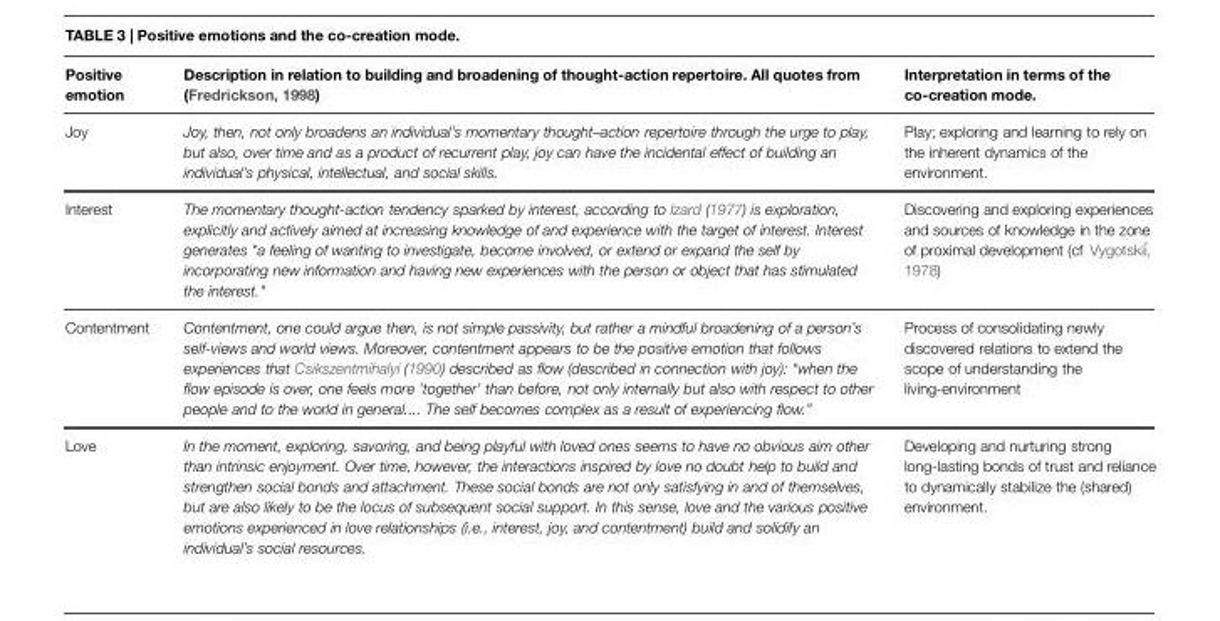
<table><thead><tr><td>Positive emotion</td><td>Description in relation to building and broadening of thought-action repertoire. All quotes from (Fredrickson, 1998)</td><td>Interpretation in terms of the co-creation mode.</td></tr></thead><tbody><tr><td>Joy</td><td>Joy, then, not only broadens an individual’s momentary thought–action repertoire through the urge to play, but also, over time and as a product of recurrent play, joy can have the incidental effect of building an individual’s physical, intellectual, and social skills.</td><td>Play; exploring and learning to rely on the inherent dynamics of the environment.</td></tr><tr><td>Interest</td><td>The momentary thought-action tendency sparked by interest, according to Izard (1977) is exploration, explicitly and actively aimed at increasing knowledge of and experience with the target of interest. Interest generates &quot;a feeling of wanting to investigate, become involved, or extend or expand the self by incorporating new information and having new experiences with the person or object that has stimulated the interest.&quot;</td><td>Discovering and exploring experiences and sources of knowledge in the zone of proximal development (cf Vygotski˘i, 1978)</td></tr><tr><td>Contentment</td><td>Contentment, one could argue then, is not simple passivity, but rather a mindful broadening of a person’s self-views and world views. Moreover, contentment appears to be the positive emotion that follows experiences that Csikszentmihalyi (1990) described as flow (described in connection with joy): “when the flow episode is over, one feels more ’together’ than before, not only internally but also with respect to other people and to the world in general.... The self becomes complex as a result of experiencing flow.”</td><td>Process of consolidating newly discovered relations to extend the scope of understanding the living-environment</td></tr><tr><td>Love</td><td>In the moment, exploring, savoring, and being playful with loved ones seems to have no obvious aim other than intrinsic enjoyment. Over time, however, the interactions inspired by love no doubt help to build and strengthen social bonds and attachment. These social bonds are not only satisfying in and of themselves, but are also likely to be the locus of subsequent social support. In this sense, love and the various positive emotions experienced in love relationships (i.e., interest, joy, and contentment) build and solidify an individual’s social resources.</td><td>Developing and nurturing strong long-lasting bonds of trust and reliance to dynamically stabilize the (shared) environment.</td></tr></tbody></table>